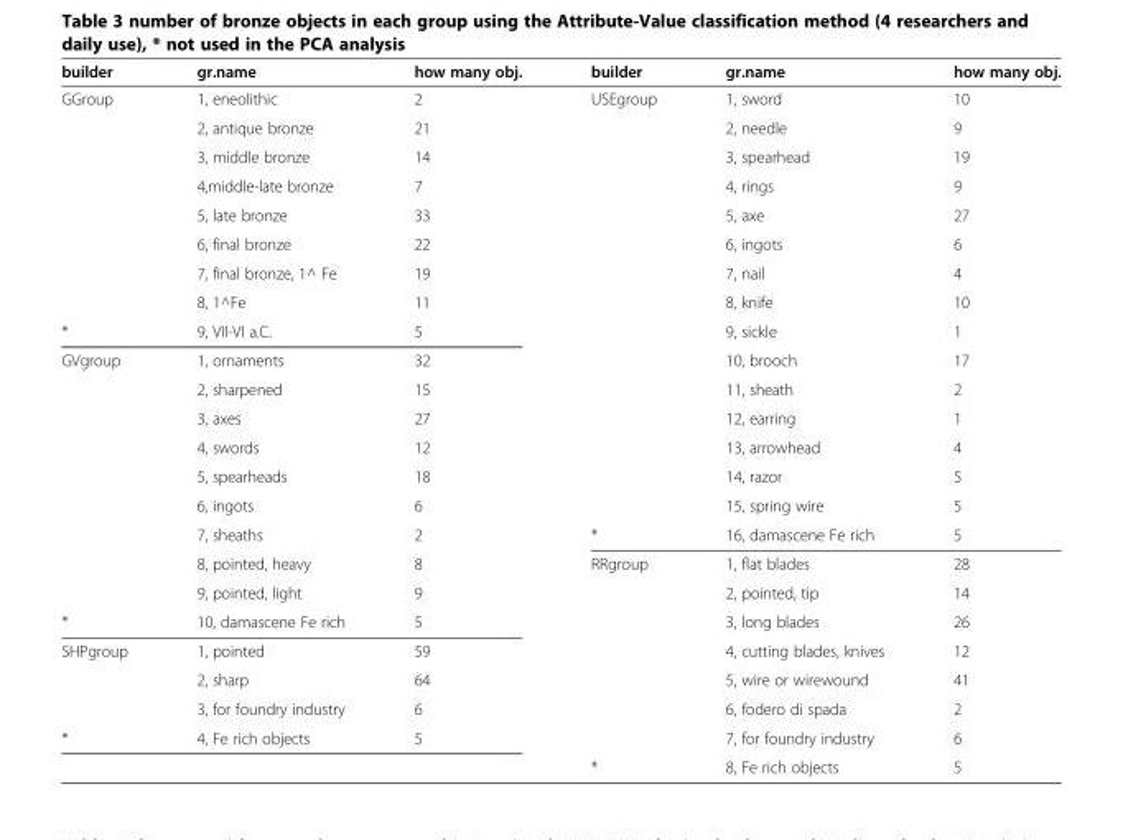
<table><thead><tr><td>builder</td><td>gr.name</td><td>how many obj.</td><td>builder</td><td>gr.name</td><td>how many obj.</td></tr></thead><tbody><tr><td rowspan="8">GGroup</td><td>1, eneolithic</td><td>2</td><td>USEgroup</td><td>1, sword</td><td>10</td></tr><tr><td>2, antique bronze</td><td>21</td><td></td><td>2, needle</td><td>9</td></tr><tr><td>3, middle bronze</td><td>14</td><td></td><td>3, spearhead</td><td>19</td></tr><tr><td>4,middle-late bronze</td><td>7</td><td></td><td>4, rings</td><td>9</td></tr><tr><td>5, late bronze</td><td>33</td><td></td><td>5, axe</td><td>27</td></tr><tr><td>6, final bronze</td><td>22</td><td></td><td>6, ingots</td><td>6</td></tr><tr><td>7, final bronze, 1^ Fe</td><td>19</td><td></td><td>7, nail</td><td>4</td></tr><tr><td>8, 1^Fe</td><td>11</td><td></td><td>8, knife</td><td>10</td></tr><tr><td>*</td><td>9, VII-VI a.C.</td><td>5</td><td></td><td>9, sickle</td><td>1</td></tr><tr><td rowspan="9">GVgroup</td><td>1, ornaments</td><td>32</td><td></td><td>10, brooch</td><td>17</td></tr><tr><td>2, sharpened</td><td>15</td><td></td><td>11, sheath</td><td>2</td></tr><tr><td>3, axes</td><td>27</td><td></td><td>12, earring</td><td>1</td></tr><tr><td>4, swords</td><td>12</td><td></td><td>13, arrowhead</td><td>4</td></tr><tr><td>5, spearheads</td><td>18</td><td></td><td>14, razor</td><td>5</td></tr><tr><td>6, ingots</td><td>6</td><td></td><td>15, spring wire</td><td>5</td></tr><tr><td>7, sheaths</td><td>2</td><td>*</td><td>16, damascene Fe rich</td><td>5</td></tr><tr><td>8, pointed, heavy</td><td>8</td><td>RRgroup</td><td>1, flat blades</td><td>28</td></tr><tr><td>9, pointed, light</td><td>9</td><td></td><td>2, pointed, tip</td><td>14</td></tr><tr><td>*</td><td>10, damascene Fe rich</td><td>5</td><td></td><td>3, long blades</td><td>26</td></tr><tr><td rowspan="3">SHPgroup</td><td>1, pointed</td><td>59</td><td></td><td>4, cutting blades, knives</td><td>12</td></tr><tr><td>2, sharp</td><td>64</td><td></td><td>5, wire or wirewound</td><td>41</td></tr><tr><td>3, for foundry industry</td><td>6</td><td></td><td>6, fodero di spada</td><td>2</td></tr><tr><td rowspan="2">*</td><td>4, Fe rich objects</td><td>5</td><td></td><td>7, for foundry industry</td><td>6</td></tr><tr><td></td><td></td><td>*</td><td>8, Fe rich objects</td><td>5</td></tr></tbody></table>